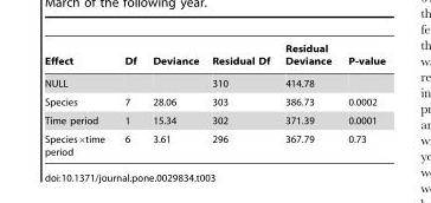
<table><thead><tr><td>Effect</td><td>Df</td><td>Deviance</td><td>Residual Df</td><td>Residual Deviance</td><td>P-value</td></tr></thead><tbody><tr><td>NULL</td><td></td><td></td><td>310</td><td>414.78</td><td></td></tr><tr><td>Species</td><td>7</td><td>28.06</td><td>303</td><td>386.73</td><td>0.0002</td></tr><tr><td>Time period</td><td>1</td><td>15.34</td><td>302</td><td>371.39</td><td>0.0001</td></tr><tr><td>Species×time period</td><td>6</td><td>3.61</td><td>296</td><td>367.79</td><td>0.73</td></tr></tbody></table>